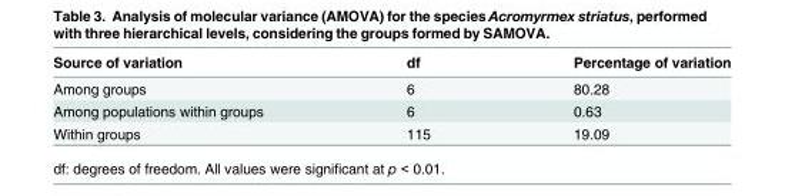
<table><thead><tr><td>Source of variation</td><td>df</td><td>Percentage of variation</td></tr></thead><tbody><tr><td>Among groups</td><td>6</td><td>80.28</td></tr><tr><td>Among populations within groups</td><td>6</td><td>0.63</td></tr><tr><td>Within groups</td><td>115</td><td>19.09</td></tr></tbody></table>